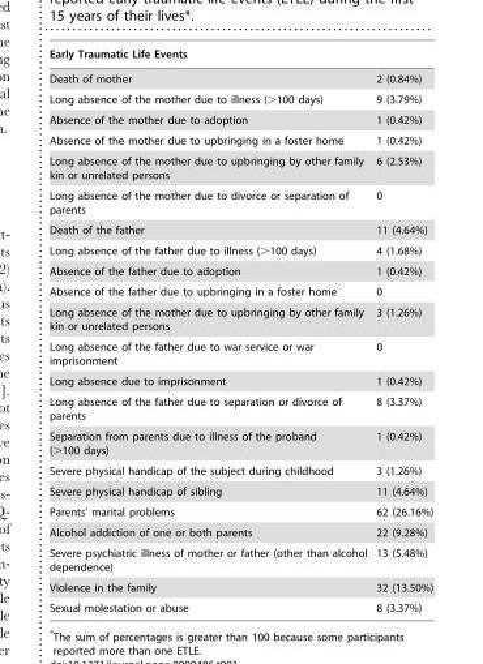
<table><thead><tr><td colspan="2">Early Traumatic Life Events</td></tr><tr><td>Death of mother</td><td>2 (0.84%)</td></tr></thead><tbody><tr><td>Long absence of the mother due to illness (&gt;100 days)</td><td>9 (3.79%)</td></tr><tr><td>Absence of the mother due to adoption</td><td>1 (0.42%)</td></tr><tr><td>Absence of the mother due to upbringing in a foster home</td><td>1 (0.42%)</td></tr><tr><td>Long absence of the mother due to upbringing by other family kin or unrelated persons</td><td>6 (2.53%)</td></tr><tr><td>Long absence of the mother due to divorce or separation of parents</td><td>0</td></tr><tr><td>Death of the father</td><td>11 (4.64%)</td></tr><tr><td>Long absence of the father due to illness (&gt;100 days)</td><td>4 (1.68%)</td></tr><tr><td>Absence of the father due to adoption</td><td>1 (0.42%)</td></tr><tr><td>Absence of the father due to upbringing in a foster home</td><td>0</td></tr><tr><td>Long absence of the mother due to upbringing by other family kin or unrelated persons</td><td>3 (1.26%)</td></tr><tr><td>Long absence of the father due to war service or war imprisonment</td><td>0</td></tr><tr><td>Long absence due to imprisonment</td><td>1 (0.42%)</td></tr><tr><td>Long absence of the father due to separation or divorce of parents</td><td>8 (3.37%)</td></tr><tr><td>Separation from parents due to illness of the proband (&gt;100 days)</td><td>1 (0.42%)</td></tr><tr><td>Severe physical handicap of the subject during childhood</td><td>3 (1.26%)</td></tr><tr><td>Severe physical handicap of sibling</td><td>11 (4.64%)</td></tr><tr><td>Parents’ marital problems</td><td>62 (26.16%)</td></tr><tr><td>Alcohol addiction of one or both parents</td><td>22 (9.28%)</td></tr><tr><td>Severe psychiatric illness of mother or father (other than alcohol dependence)</td><td>13 (5.48%)</td></tr><tr><td>Violence in the family</td><td>32 (13.50%)</td></tr><tr><td>Sexual molestation or abuse</td><td>8 (3.37%)</td></tr></tbody></table>